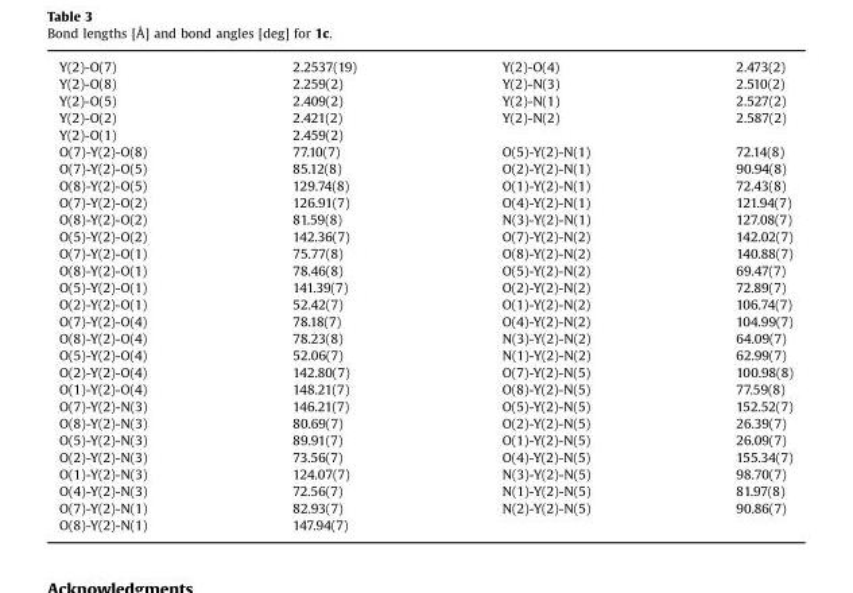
<table><tbody><tr><td>Y(2)-O(7)</td><td>2.2537(19)</td><td>Y(2)-O(4)</td><td>2.473(2)</td></tr><tr><td>Y(2)-O(8)</td><td>2.259(2)</td><td>Y(2)-N(3)</td><td>2.510(2)</td></tr><tr><td>Y(2)-O(5)</td><td>2.409(2)</td><td>Y(2)-N(1)</td><td>2.527(2)</td></tr><tr><td>Y(2)-O(2)</td><td>2.421(2)</td><td>Y(2)-N(2)</td><td>2.587(2)</td></tr><tr><td>Y(2)-O(1)</td><td>2.459(2)</td><td></td><td></td></tr><tr><td>O(7)-Y(2)-O(8)</td><td>77.10(7)</td><td>O(5)-Y(2)-N(1)</td><td>72.14(8)</td></tr><tr><td>O(7)-Y(2)-O(5)</td><td>85.12(8)</td><td>O(2)-Y(2)-N(1)</td><td>90.94(8)</td></tr><tr><td>O(8)-Y(2)-O(5)</td><td>129.74(8)</td><td>O(1)-Y(2)-N(1)</td><td>72.43(8)</td></tr><tr><td>O(7)-Y(2)-O(2)</td><td>126.91(7)</td><td>O(4)-Y(2)-N(1)</td><td>121.94(7)</td></tr><tr><td>O(8)-Y(2)-O(2)</td><td>81.59(8)</td><td>N(3)-Y(2)-N(1)</td><td>127.08(7)</td></tr><tr><td>O(5)-Y(2)-O(2)</td><td>142.36(7)</td><td>O(7)-Y(2)-N(2)</td><td>142.02(7)</td></tr><tr><td>O(7)-Y(2)-O(1)</td><td>75.77(8)</td><td>O(8)-Y(2)-N(2)</td><td>140.88(7)</td></tr><tr><td>O(8)-Y(2)-O(1)</td><td>78.46(8)</td><td>O(5)-Y(2)-N(2)</td><td>69.47(7)</td></tr><tr><td>O(5)-Y(2)-O(1)</td><td>141.39(7)</td><td>O(2)-Y(2)-N(2)</td><td>72.89(7)</td></tr><tr><td>O(2)-Y(2)-O(1)</td><td>52.42(7)</td><td>O(1)-Y(2)-N(2)</td><td>106.74(7)</td></tr><tr><td>O(7)-Y(2)-O(4)</td><td>78.18(7)</td><td>O(4)-Y(2)-N(2)</td><td>104.99(7)</td></tr><tr><td>O(8)-Y(2)-O(4)</td><td>78.23(8)</td><td>N(3)-Y(2)-N(2)</td><td>64.09(7)</td></tr><tr><td>O(5)-Y(2)-O(4)</td><td>52.06(7)</td><td>N(1)-Y(2)-N(2)</td><td>62.99(7)</td></tr><tr><td>O(2)-Y(2)-O(4)</td><td>142.80(7)</td><td>O(7)-Y(2)-N(5)</td><td>100.98(8)</td></tr><tr><td>O(1)-Y(2)-O(4)</td><td>148.21(7)</td><td>O(8)-Y(2)-N(5)</td><td>77.59(8)</td></tr><tr><td>O(7)-Y(2)-N(3)</td><td>146.21(7)</td><td>O(5)-Y(2)-N(5)</td><td>152.52(7)</td></tr><tr><td>O(8)-Y(2)-N(3)</td><td>80.69(7)</td><td>O(2)-Y(2)-N(5)</td><td>26.39(7)</td></tr><tr><td>O(5)-Y(2)-N(3)</td><td>89.91(7)</td><td>O(1)-Y(2)-N(5)</td><td>26.09(7)</td></tr><tr><td>O(2)-Y(2)-N(3)</td><td>73.56(7)</td><td>O(4)-Y(2)-N(5)</td><td>155.34(7)</td></tr><tr><td>O(1)-Y(2)-N(3)</td><td>124.07(7)</td><td>N(3)-Y(2)-N(5)</td><td>98.70(7)</td></tr><tr><td>O(4)-Y(2)-N(3)</td><td>72.56(7)</td><td>N(1)-Y(2)-N(5)</td><td>81.97(8)</td></tr><tr><td>O(7)-Y(2)-N(1)</td><td>82.93(7)</td><td>N(2)-Y(2)-N(5)</td><td>90.86(7)</td></tr><tr><td>O(8)-Y(2)-N(1)</td><td>147.94(7)</td><td></td><td></td></tr></tbody></table>